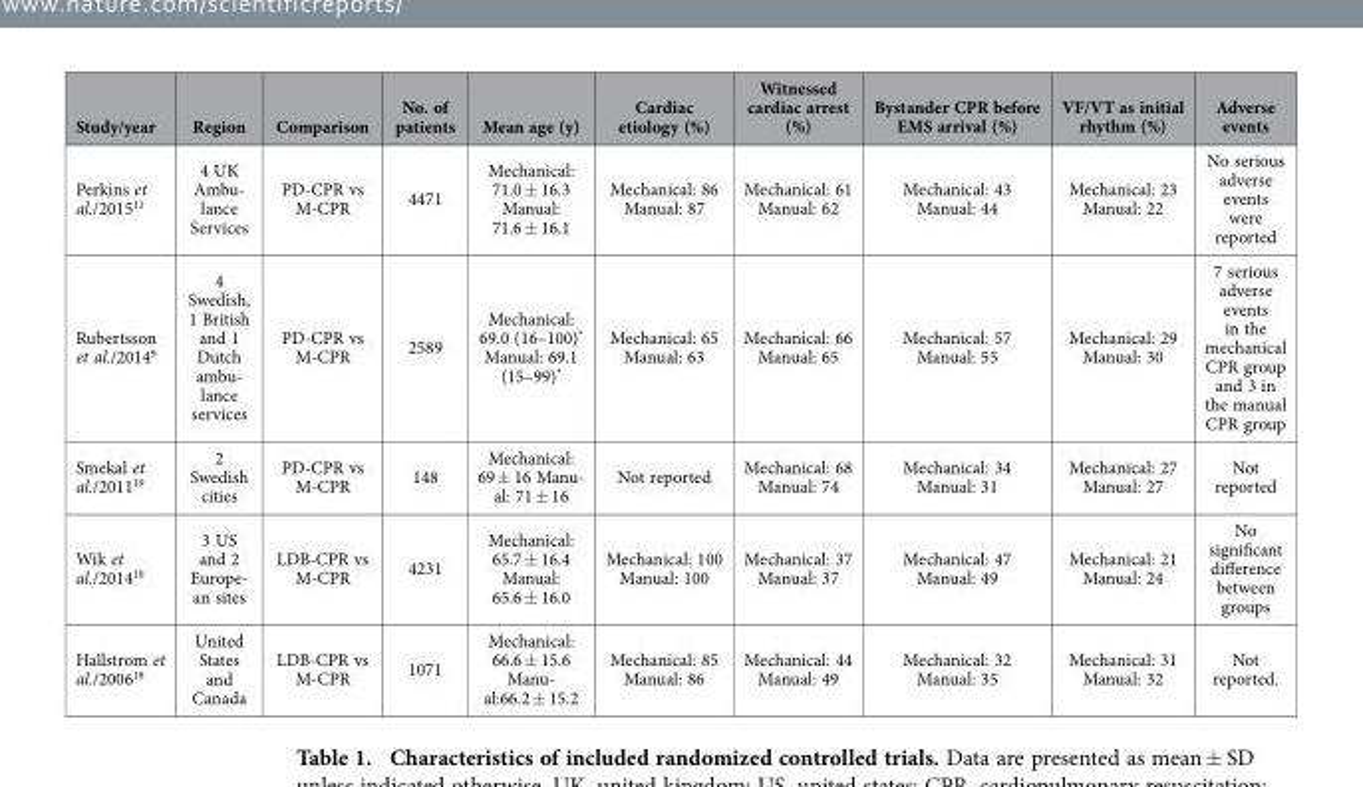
<table><thead><tr><td>Study/year</td><td>Region</td><td>Comparison</td><td>No. of patients</td><td>Mean age (y)</td><td>Cardiac etiology (%)</td><td>Witnessed cardiac arrest (%)</td><td>Bystander CPR before EMS arrival (%)</td><td>VF/VT as initial rhythm (%)</td><td>Adverse events</td></tr></thead><tbody><tr><td>Perkins et al./2015<sup>11</sup></td><td>4 UK Ambu- lance Services</td><td>PD-CPR vs M-CPR</td><td>4471</td><td>Mechanical: 71.0 ± 16.3 Manual: 71.6 ± 16.1</td><td>Mechanical: 86 Manual: 87</td><td>Mechanical: 61 Manual: 62</td><td>Mechanical: 43 Manual: 44</td><td>Mechanical: 23 Manual: 22</td><td>No serious adverse events were reported</td></tr><tr><td>Rubertsson et al./2014<sup>9</sup></td><td>4 Swedish, 1 British and 1 Dutch ambu- lance services</td><td>PD-CPR vs M-CPR</td><td>2589</td><td>Mechanical: 69.0 (16–100)* Manual: 69.1 (15–99)*</td><td>Mechanical: 65 Manual: 63</td><td>Mechanical: 66 Manual: 65</td><td>Mechanical: 57 Manual: 55</td><td>Mechanical: 29 Manual: 30</td><td>7 serious adverse events in the mechanical CPR group and 3 in the manual CPR group</td></tr><tr><td>Smekal et al./2011<sup>19</sup></td><td>2 Swedish cities</td><td>PD-CPR vs M-CPR</td><td>148</td><td>Mechanical: 69 ± 16 Manu- al: 71 ± 16</td><td>Not reported</td><td>Mechanical: 68 Manual: 74</td><td>Mechanical: 34 Manual: 31</td><td>Mechanical: 27 Manual: 27</td><td>Not reported</td></tr><tr><td>Wik et al./2014<sup>10</sup></td><td>3 US and 2 Europe- an sites</td><td>LDB-CPR vs M-CPR</td><td>4231</td><td>Mechanical: 65.7 ± 16.4 Manual: 65.6 ± 16.0</td><td>Mechanical: 100 Manual: 100</td><td>Mechanical: 37 Manual: 37</td><td>Mechanical: 47 Manual: 49</td><td>Mechanical: 21 Manual: 24</td><td>No significant difference between groups</td></tr><tr><td>Hallstrom et al./2006<sup>18</sup></td><td>United States and Canada</td><td>LDB-CPR vs M-CPR</td><td>1071</td><td>Mechanical: 66.6 ± 15.6 Manu- al:66.2 ± 15.2</td><td>Mechanical: 85 Manual: 86</td><td>Mechanical: 44 Manual: 49</td><td>Mechanical: 32 Manual: 35</td><td>Mechanical: 31 Manual: 32</td><td>Not reported.</td></tr></tbody></table>